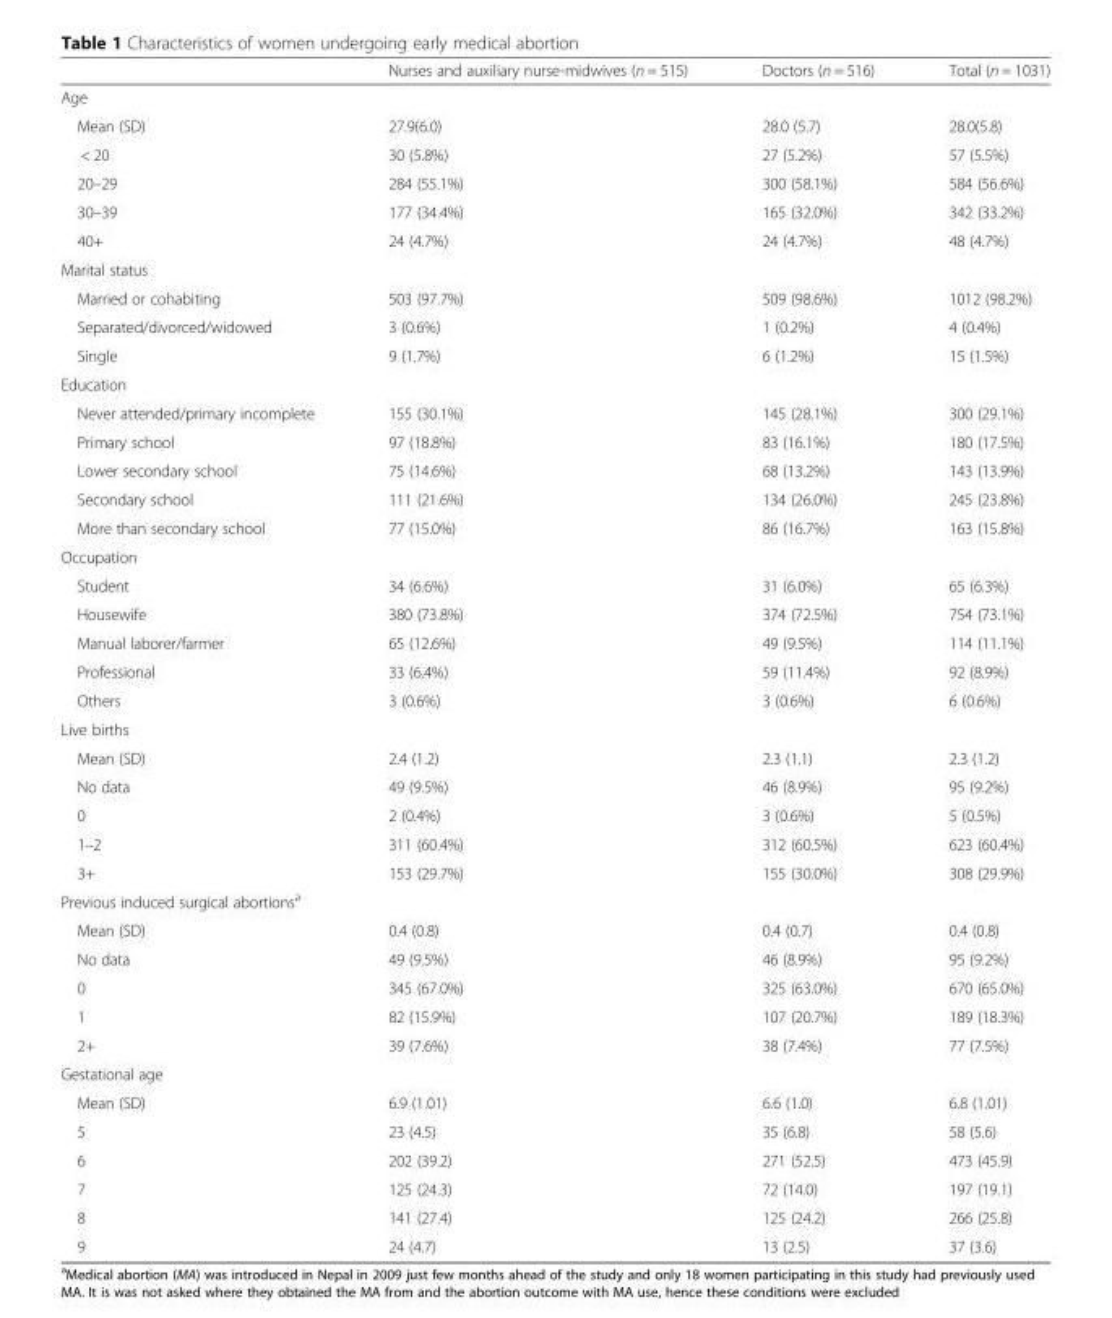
<table><thead><tr><td></td><td>Nurses and auxiliary nurse-midwives (n = 515)</td><td>Doctors (n = 516)</td><td>Total (n = 1031)</td></tr></thead><tbody><tr><td colspan="4">Age</td></tr><tr><td>Mean (SD)</td><td>27.9(6.0)</td><td>28.0 (5.7)</td><td>28.0(5.8)</td></tr><tr><td>&lt; 20</td><td>30 (5.8%)</td><td>27 (5.2%)</td><td>57 (5.5%)</td></tr><tr><td>20–29</td><td>284 (55.1%)</td><td>300 (58.1%)</td><td>584 (56.6%)</td></tr><tr><td>30–39</td><td>177 (34.4%)</td><td>165 (32.0%)</td><td>342 (33.2%)</td></tr><tr><td>40+</td><td>24 (4.7%)</td><td>24 (4.7%)</td><td>48 (4.7%)</td></tr><tr><td colspan="4">Marital status</td></tr><tr><td>Married or cohabiting</td><td>503 (97.7%)</td><td>509 (98.6%)</td><td>1012 (98.2%)</td></tr><tr><td>Separated/divorced/widowed</td><td>3 (0.6%)</td><td>1 (0.2%)</td><td>4 (0.4%)</td></tr><tr><td>Single</td><td>9 (1.7%)</td><td>6 (1.2%)</td><td>15 (1.5%)</td></tr><tr><td colspan="4">Education</td></tr><tr><td>Never attended/primary incomplete</td><td>155 (30.1%)</td><td>145 (28.1%)</td><td>300 (29.1%)</td></tr><tr><td>Primary school</td><td>97 (18.8%)</td><td>83 (16.1%)</td><td>180 (17.5%)</td></tr><tr><td>Lower secondary school</td><td>75 (14.6%)</td><td>68 (13.2%)</td><td>143 (13.9%)</td></tr><tr><td>Secondary school</td><td>111 (21.6%)</td><td>134 (26.0%)</td><td>245 (23.8%)</td></tr><tr><td>More than secondary school</td><td>77 (15.0%)</td><td>86 (16.7%)</td><td>163 (15.8%)</td></tr><tr><td colspan="4">Occupation</td></tr><tr><td>Student</td><td>34 (6.6%)</td><td>31 (6.0%)</td><td>65 (6.3%)</td></tr><tr><td>Housewife</td><td>380 (73.8%)</td><td>374 (72.5%)</td><td>754 (73.1%)</td></tr><tr><td>Manual laborer/farmer</td><td>65 (12.6%)</td><td>49 (9.5%)</td><td>114 (11.1%)</td></tr><tr><td>Professional</td><td>33 (6.4%)</td><td>59 (11.4%)</td><td>92 (8.9%)</td></tr><tr><td>Others</td><td>3 (0.6%)</td><td>3 (0.6%)</td><td>6 (0.6%)</td></tr><tr><td colspan="4">Live births</td></tr><tr><td>Mean (SD)</td><td>2.4 (1.2)</td><td>2.3 (1.1)</td><td>2.3 (1.2)</td></tr><tr><td>No data</td><td>49 (9.5%)</td><td>46 (8.9%)</td><td>95 (9.2%)</td></tr><tr><td>0</td><td>2 (0.4%)</td><td>3 (0.6%)</td><td>5 (0.5%)</td></tr><tr><td>1–2</td><td>311 (60.4%)</td><td>312 (60.5%)</td><td>623 (60.4%)</td></tr><tr><td>3+</td><td>153 (29.7%)</td><td>155 (30.0%)</td><td>308 (29.9%)</td></tr><tr><td colspan="4">Previous induced surgical abortions<sup>a</sup></td></tr><tr><td>Mean (SD)</td><td>0.4 (0.8)</td><td>0.4 (0.7)</td><td>0.4 (0.8)</td></tr><tr><td>No data</td><td>49 (9.5%)</td><td>46 (8.9%)</td><td>95 (9.2%)</td></tr><tr><td>0</td><td>345 (67.0%)</td><td>325 (63.0%)</td><td>670 (65.0%)</td></tr><tr><td>1</td><td>82 (15.9%)</td><td>107 (20.7%)</td><td>189 (18.3%)</td></tr><tr><td>2+</td><td>39 (7.6%)</td><td>38 (7.4%)</td><td>77 (7.5%)</td></tr><tr><td colspan="4">Gestational age</td></tr><tr><td>Mean (SD)</td><td>6.9 (1.01)</td><td>6.6 (1.0)</td><td>6.8 (1.01)</td></tr><tr><td>5</td><td>23 (4.5)</td><td>35 (6.8)</td><td>58 (5.6)</td></tr><tr><td>6</td><td>202 (39.2)</td><td>271 (52.5)</td><td>473 (45.9)</td></tr><tr><td>7</td><td>125 (24.3)</td><td>72 (14.0)</td><td>197 (19.1)</td></tr><tr><td>8</td><td>141 (27.4)</td><td>125 (24.2)</td><td>266 (25.8)</td></tr><tr><td>9</td><td>24 (4.7)</td><td>13 (2.5)</td><td>37 (3.6)</td></tr></tbody></table>